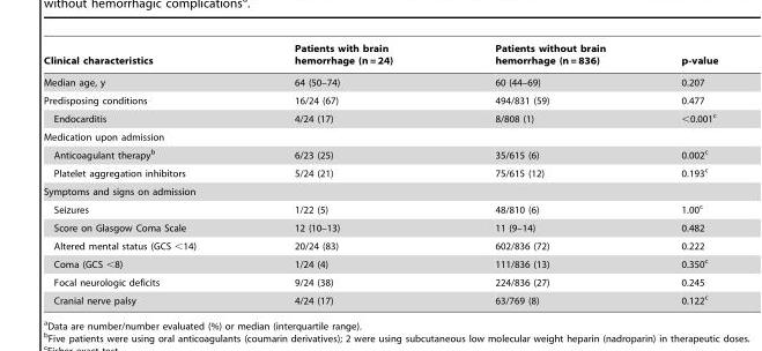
<table><thead><tr><td>Clinical characteristics</td><td>Patients with brain hemorrhage (n = 24)</td><td>Patients without brain hemorrhage (n = 836)</td><td>p-value</td></tr></thead><tbody><tr><td>Median age, y</td><td>64 (50–74)</td><td>60 (44–69)</td><td>0.207</td></tr><tr><td>Predisposing conditions</td><td>16/24 (67)</td><td>494/831 (59)</td><td>0.477</td></tr><tr><td>Endocarditis</td><td>4/24 (17)</td><td>8/808 (1)</td><td>&lt;0.001<sup>c</sup></td></tr><tr><td colspan="4">Medication upon admission</td></tr><tr><td>Anticoagulant therapy<sup>b</sup></td><td>6/23 (25)</td><td>35/615 (6)</td><td>0.002<sup>c</sup></td></tr><tr><td>Platelet aggregation inhibitors</td><td>5/24 (21)</td><td>75/615 (12)</td><td>0.193<sup>c</sup></td></tr><tr><td colspan="4">Symptoms and signs on admission</td></tr><tr><td>Seizures</td><td>1/22 (5)</td><td>48/810 (6)</td><td>1.00<sup>c</sup></td></tr><tr><td>Score on Glasgow Coma Scale</td><td>12 (10–13)</td><td>11 (9–14)</td><td>0.482</td></tr><tr><td>Altered mental status (GCS &lt;14)</td><td>20/24 (83)</td><td>602/836 (72)</td><td>0.222</td></tr><tr><td>Coma (GCS &lt;8)</td><td>1/24 (4)</td><td>111/836 (13)</td><td>0.350<sup>c</sup></td></tr><tr><td>Focal neurologic deficits</td><td>9/24 (38)</td><td>224/836 (27)</td><td>0.245</td></tr><tr><td>Cranial nerve palsy</td><td>4/24 (17)</td><td>63/769 (8)</td><td>0.122<sup>c</sup></td></tr></tbody></table>